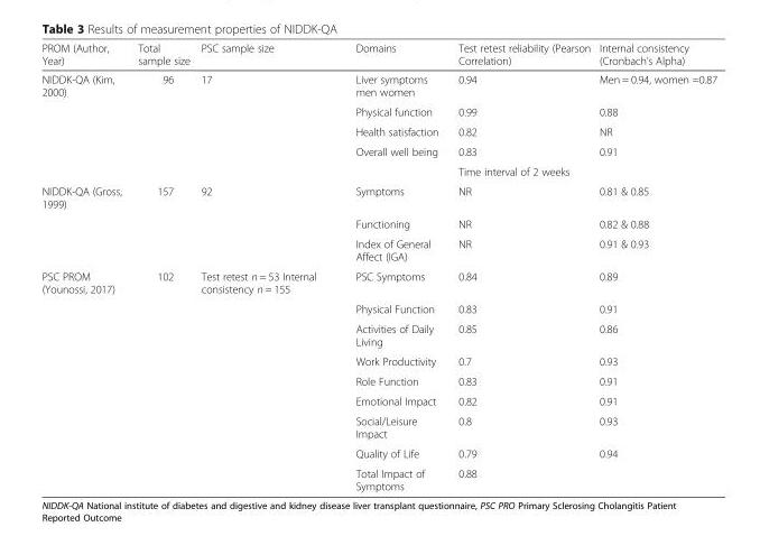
<table><thead><tr><td>PROM (Author, Year)</td><td>Total sample size</td><td>PSC sample size</td><td>Domains</td><td>Test retest reliability (Pearson Correlation)</td><td>Internal consistency (Cronbach’s Alpha)</td></tr></thead><tbody><tr><td rowspan="5">NIDDK-QA (Kim, 2000)</td><td>96</td><td>17</td><td>Liver symptoms men women</td><td>0.94</td><td>Men = 0.94, women =0.87</td></tr><tr><td></td><td></td><td>Physical function</td><td>0.99</td><td>0.88</td></tr><tr><td></td><td></td><td>Health satisfaction</td><td>0.82</td><td>NR</td></tr><tr><td></td><td></td><td>Overall well being</td><td>0.83</td><td>0.91</td></tr><tr><td></td><td></td><td></td><td>Time interval of 2 weeks</td><td></td></tr><tr><td rowspan="3">NIDDK-QA (Gross, 1999)</td><td>157</td><td>92</td><td>Symptoms</td><td>NR</td><td>0.81 &amp; 0.85</td></tr><tr><td></td><td></td><td>Functioning</td><td>NR</td><td>0.82 &amp; 0.88</td></tr><tr><td></td><td></td><td>Index of General Affect (IGA)</td><td>NR</td><td>0.91 &amp; 0.93</td></tr><tr><td rowspan="9">PSC PROM (Younossi, 2017)</td><td>102</td><td>Test retest n = 53 Internal consistency n = 155</td><td>PSC Symptoms</td><td>0.84</td><td>0.89</td></tr><tr><td></td><td></td><td>Physical Function</td><td>0.83</td><td>0.91</td></tr><tr><td></td><td></td><td>Activities of Daily Living</td><td>0.85</td><td>0.86</td></tr><tr><td></td><td></td><td>Work Productivity</td><td>0.7</td><td>0.93</td></tr><tr><td></td><td></td><td>Role Function</td><td>0.83</td><td>0.91</td></tr><tr><td></td><td></td><td>Emotional Impact</td><td>0.82</td><td>0.91</td></tr><tr><td></td><td></td><td>Social/Leisure Impact</td><td>0.8</td><td>0.93</td></tr><tr><td></td><td></td><td>Quality of Life</td><td>0.79</td><td>0.94</td></tr><tr><td></td><td></td><td>Total Impact of Symptoms</td><td>0.88</td><td></td></tr></tbody></table>